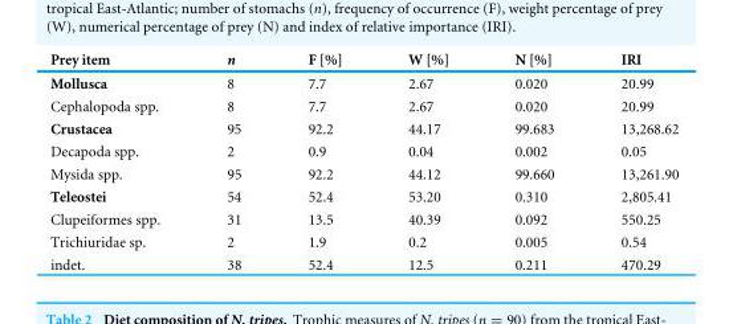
<table><thead><tr><td>Prey item</td><td>n</td><td>F [%]</td><td>W [%]</td><td>N [%]</td><td>IRI</td></tr></thead><tbody><tr><td>Mollusca</td><td>8</td><td>7.7</td><td>2.67</td><td>0.020</td><td>20.99</td></tr><tr><td>Cephalopoda spp.</td><td>8</td><td>7.7</td><td>2.67</td><td>0.020</td><td>20.99</td></tr><tr><td>Crustacea</td><td>95</td><td>92.2</td><td>44.17</td><td>99.683</td><td>13,268.62</td></tr><tr><td>Decapoda spp.</td><td>2</td><td>0.9</td><td>0.04</td><td>0.002</td><td>0.05</td></tr><tr><td>Mysida spp.</td><td>95</td><td>92.2</td><td>44.12</td><td>99.660</td><td>13,261.90</td></tr><tr><td>Teleostei</td><td>54</td><td>52.4</td><td>53.20</td><td>0.310</td><td>2,805.41</td></tr><tr><td>Clupeiformes spp.</td><td>31</td><td>13.5</td><td>40.39</td><td>0.092</td><td>550.25</td></tr><tr><td>Trichiuridae sp.</td><td>2</td><td>1.9</td><td>0.2</td><td>0.005</td><td>0.54</td></tr><tr><td>indet.</td><td>38</td><td>52.4</td><td>12.5</td><td>0.211</td><td>470.29</td></tr></tbody></table>